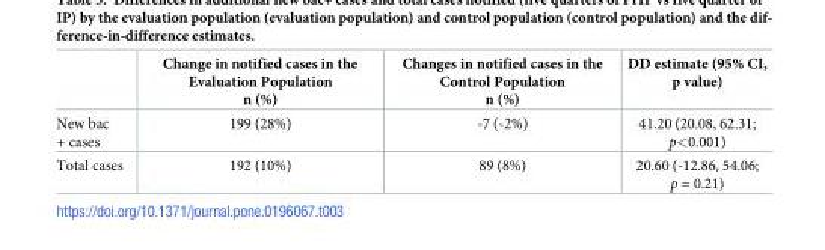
<table><thead><tr><td></td><td>Change in notified cases in the Evaluation Population n (%)</td><td>Changes in notified cases in the Control Population n (%)</td><td>DD estimate (95% CI, p value)</td></tr></thead><tbody><tr><td>New bac + cases</td><td>199 (28%)</td><td>-7 (-2%)</td><td>41.20 (20.08, 62.31; p&lt;0.001)</td></tr><tr><td>Total cases</td><td>192 (10%)</td><td>89 (8%)</td><td>20.60 (-12.86, 54.06; p = 0.21)</td></tr></tbody></table>